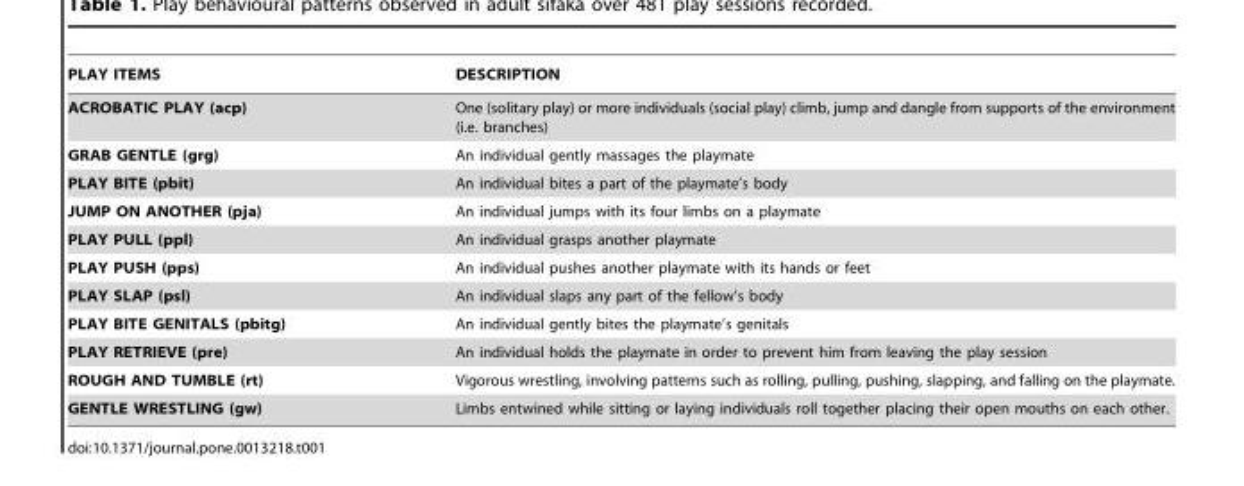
<table><thead><tr><td>PLAY ITEMS</td><td>DESCRIPTION</td></tr></thead><tbody><tr><td>ACROBATIC PLAY (acp)</td><td>One (solitary play) or more individuals (social play) climb, jump and dangle from supports of the environment (i.e. branches)</td></tr><tr><td>GRAB GENTLE (grg)</td><td>An individual gently massages the playmate</td></tr><tr><td>PLAY BITE (pbit)</td><td>An individual bites a part of the playmate’s body</td></tr><tr><td>JUMP ON ANOTHER (pja)</td><td>An individual jumps with its four limbs on a playmate</td></tr><tr><td>PLAY PULL (ppl)</td><td>An individual grasps another playmate</td></tr><tr><td>PLAY PUSH (pps)</td><td>An individual pushes another playmate with its hands or feet</td></tr><tr><td>PLAY SLAP (psl)</td><td>An individual slaps any part of the fellow’s body</td></tr><tr><td>PLAY BITE GENITALS (pbitg)</td><td>An individual gently bites the playmate’s genitals</td></tr><tr><td>PLAY RETRIEVE (pre)</td><td>An individual holds the playmate in order to prevent him from leaving the play session</td></tr><tr><td>ROUGH AND TUMBLE (rt)</td><td>Vigorous wrestling, involving patterns such as rolling, pulling, pushing, slapping, and falling on the playmate.</td></tr><tr><td>GENTLE WRESTLING (gw)</td><td>Limbs entwined while sitting or laying individuals roll together placing their open mouths on each other.</td></tr></tbody></table>